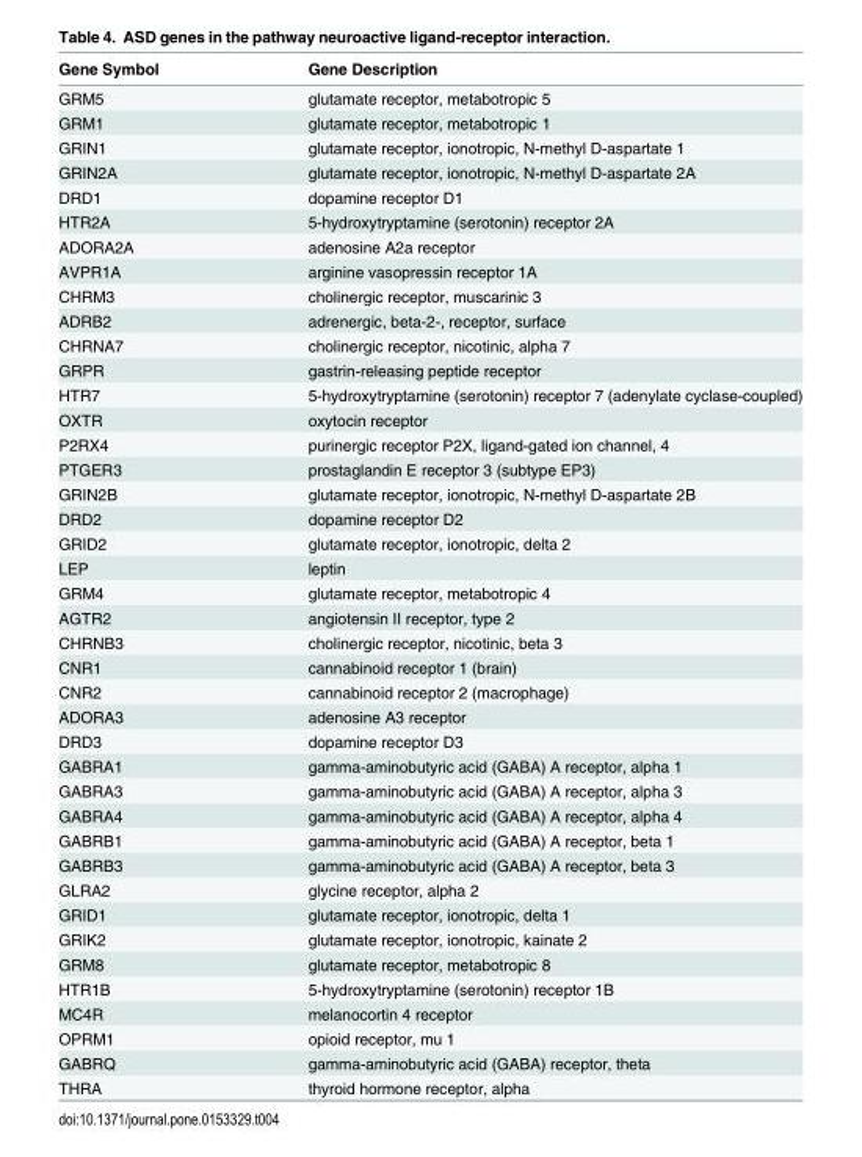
<table><thead><tr><td>Gene Symbol</td><td>Gene Description</td></tr></thead><tbody><tr><td>GRM5</td><td>glutamate receptor, metabotropic 5</td></tr><tr><td>GRM1</td><td>glutamate receptor, metabotropic 1</td></tr><tr><td>GRIN1</td><td>glutamate receptor, ionotropic, N-methyl D-aspartate 1</td></tr><tr><td>GRIN2A</td><td>glutamate receptor, ionotropic, N-methyl D-aspartate 2A</td></tr><tr><td>DRD1</td><td>dopamine receptor D1</td></tr><tr><td>HTR2A</td><td>5-hydroxytryptamine (serotonin) receptor 2A</td></tr><tr><td>ADORA2A</td><td>adenosine A2a receptor</td></tr><tr><td>AVPR1A</td><td>arginine vasopressin receptor 1A</td></tr><tr><td>CHRM3</td><td>cholinergic receptor, muscarinic 3</td></tr><tr><td>ADRB2</td><td>adrenergic, beta-2-, receptor, surface</td></tr><tr><td>CHRNA7</td><td>cholinergic receptor, nicotinic, alpha 7</td></tr><tr><td>GRPR</td><td>gastrin-releasing peptide receptor</td></tr><tr><td>HTR7</td><td>5-hydroxytryptamine (serotonin) receptor 7 (adenylate cyclase-coupled)</td></tr><tr><td>OXTR</td><td>oxytocin receptor</td></tr><tr><td>P2RX4</td><td>purinergic receptor P2X, ligand-gated ion channel, 4</td></tr><tr><td>PTGER3</td><td>prostaglandin E receptor 3 (subtype EP3)</td></tr><tr><td>GRIN2B</td><td>glutamate receptor, ionotropic, N-methyl D-aspartate 2B</td></tr><tr><td>DRD2</td><td>dopamine receptor D2</td></tr><tr><td>GRID2</td><td>glutamate receptor, ionotropic, delta 2</td></tr><tr><td>LEP</td><td>leptin</td></tr><tr><td>GRM4</td><td>glutamate receptor, metabotropic 4</td></tr><tr><td>AGTR2</td><td>angiotensin II receptor, type 2</td></tr><tr><td>CHRNB3</td><td>cholinergic receptor, nicotinic, beta 3</td></tr><tr><td>CNR1</td><td>cannabinoid receptor 1 (brain)</td></tr><tr><td>CNR2</td><td>cannabinoid receptor 2 (macrophage)</td></tr><tr><td>ADORA3</td><td>adenosine A3 receptor</td></tr><tr><td>DRD3</td><td>dopamine receptor D3</td></tr><tr><td>GABRA1</td><td>gamma-aminobutyric acid (GABA) A receptor, alpha 1</td></tr><tr><td>GABRA3</td><td>gamma-aminobutyric acid (GABA) A receptor, alpha 3</td></tr><tr><td>GABRA4</td><td>gamma-aminobutyric acid (GABA) A receptor, alpha 4</td></tr><tr><td>GABRB1</td><td>gamma-aminobutyric acid (GABA) A receptor, beta 1</td></tr><tr><td>GABRB3</td><td>gamma-aminobutyric acid (GABA) A receptor, beta 3</td></tr><tr><td>GLRA2</td><td>glycine receptor, alpha 2</td></tr><tr><td>GRID1</td><td>glutamate receptor, ionotropic, delta 1</td></tr><tr><td>GRIK2</td><td>glutamate receptor, ionotropic, kainate 2</td></tr><tr><td>GRM8</td><td>glutamate receptor, metabotropic 8</td></tr><tr><td>HTR1B</td><td>5-hydroxytryptamine (serotonin) receptor 1B</td></tr><tr><td>MC4R</td><td>melanocortin 4 receptor</td></tr><tr><td>OPRM1</td><td>opioid receptor, mu 1</td></tr><tr><td>GABRQ</td><td>gamma-aminobutyric acid (GABA) receptor, theta</td></tr><tr><td>THRA</td><td>thyroid hormone receptor, alpha</td></tr></tbody></table>